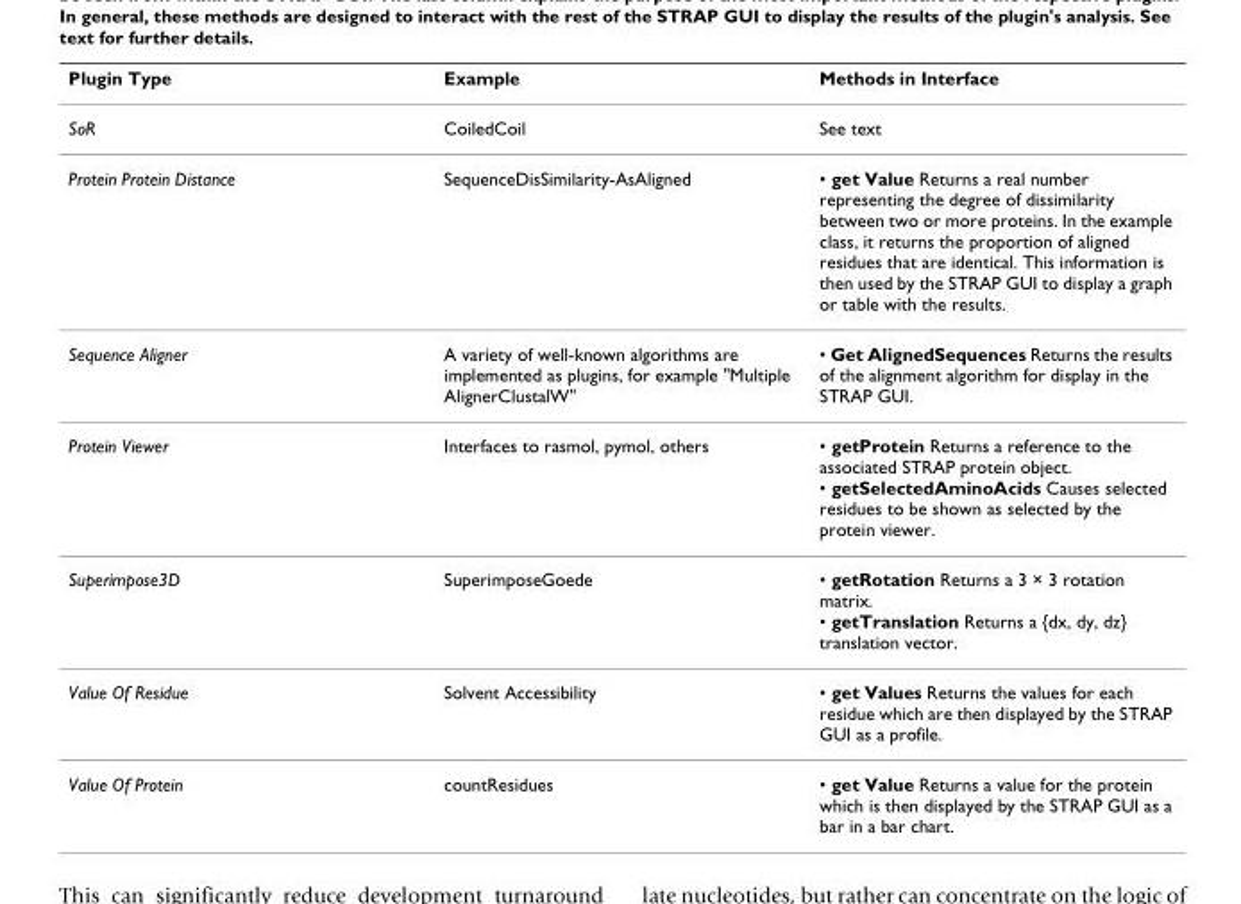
<table><thead><tr><td>Plugin Type</td><td>Example</td><td>Methods in Interface</td></tr></thead><tbody><tr><td>SoR</td><td>CoiledCoil</td><td>See text</td></tr><tr><td>Protein Protein Distance</td><td>SequenceDisSimilarity-AsAligned</td><td>• get Value Returns a real number representing the degree of dissimilarity between two or more proteins. In the example class, it returns the proportion of aligned residues that are identical. This information is then used by the STRAP GUI to display a graph or table with the results.</td></tr><tr><td>Sequence Aligner</td><td>A variety of well-known algorithms are implemented as plugins, for example &quot;Multiple AlignerClustalW&quot;</td><td>• Get AlignedSequences Returns the results of the alignment algorithm for display in the STRAP GUI.</td></tr><tr><td>Protein Viewer</td><td>Interfaces to rasmol, pymol, others</td><td>• getProtein Returns a reference to the associated STRAP protein object. • getSelectedAminoAcids Causes selected residues to be shown as selected by the protein viewer.</td></tr><tr><td>Superimpose3D</td><td>SuperimposeGoede</td><td>• getRotation Returns a 3 × 3 rotation matrix. • getTranslation Returns a {dx, dy, dz} translation vector.</td></tr><tr><td>Value Of Residue</td><td>Solvent Accessibility</td><td>• get Values Returns the values for each residue which are then displayed by the STRAP GUI as a profile.</td></tr><tr><td>Value Of Protein</td><td>countResidues</td><td>• get Value Returns a value for the protein which is then displayed by the STRAP GUI as a bar in a bar chart.</td></tr></tbody></table>